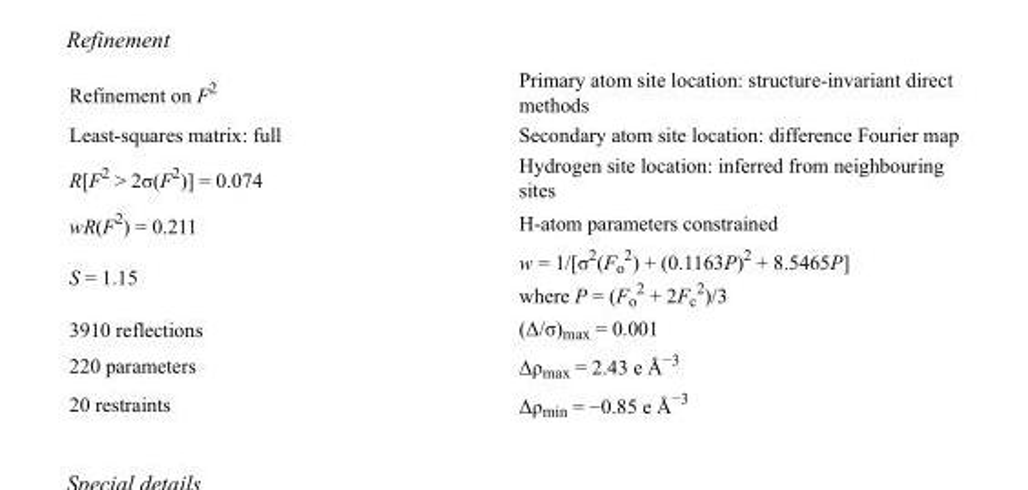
<table><tbody><tr><td>Refinement on F<sup>2</sup></td><td>Primary atom site location: structure-invariant direct methods</td></tr><tr><td>Least-squares matrix: full</td><td>Secondary atom site location: difference Fourier map</td></tr><tr><td>R[F<sup>2</sup> &gt; 2σ(F<sup>2</sup>)] = 0.074</td><td>Hydrogen site location: inferred from neighbouring sites</td></tr><tr><td>wR(F<sup>2</sup>) = 0.211</td><td>H-atom parameters constrained</td></tr><tr><td>S = 1.15</td><td>w = 1/[σ<sup>2</sup>(F<sub>o</sub> <sup>2</sup>) + (0.1163P)<sup>2</sup> + 8.5465P] where P = (F<sub>o</sub> <sup>2</sup> + 2F<sub>c</sub> <sup>2</sup>)/3</td></tr><tr><td>3910 reflections</td><td>(Δ/σ)<sub>max</sub> = 0.001</td></tr><tr><td>220 parameters</td><td>Δρ<sub>max</sub> = 2.43 e Å<sup>−3</sup></td></tr><tr><td>20 restraints</td><td>Δρ<sub>min</sub> = −0.85 e Å<sup>−3</sup></td></tr></tbody></table>